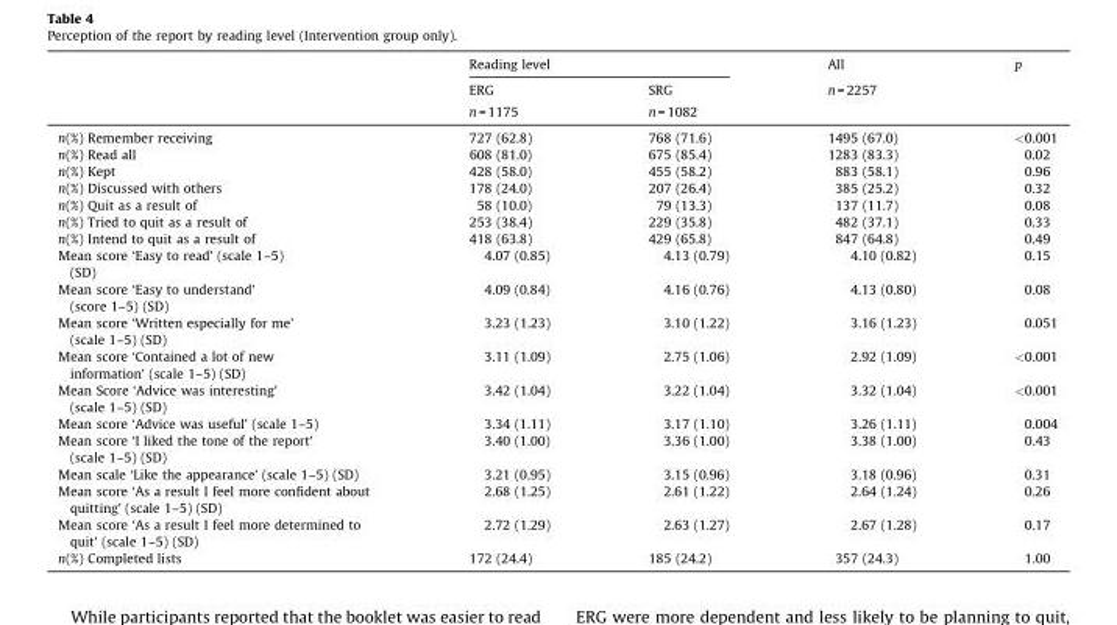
<table><thead><tr><td rowspan="3"></td><td colspan="2">Reading level</td><td rowspan="3">All n = 2257</td><td rowspan="3">p</td></tr><tr><td rowspan="2">ERG n = 1175</td><td rowspan="2">SRG n = 1082</td></tr><tr></tr></thead><tbody><tr><td>n(%) Remember receiving</td><td>727 (62.8)</td><td>768 (71.6)</td><td>1495 (67.0)</td><td>&lt;0.001</td></tr><tr><td>n(%) Read all</td><td>608 (81.0)</td><td>675 (85.4)</td><td>1283 (83.3)</td><td>0.02</td></tr><tr><td>n(%) Kept</td><td>428 (58.0)</td><td>455 (58.2)</td><td>883 (58.1)</td><td>0.96</td></tr><tr><td>n(%) Discussed with others</td><td>178 (24.0)</td><td>207 (26.4)</td><td>385 (25.2)</td><td>0.32</td></tr><tr><td>n(%) Quit as a result of</td><td>58 (10.0)</td><td>79 (13.3)</td><td>137 (11.7)</td><td>0.08</td></tr><tr><td>n(%) Tried to quit as a result of</td><td>253 (38.4)</td><td>229 (35.8)</td><td>482 (37.1)</td><td>0.33</td></tr><tr><td>n(%) Intend to quit as a result of</td><td>418 (63.8)</td><td>429 (65.8)</td><td>847 (64.8)</td><td>0.49</td></tr><tr><td>Mean score ‘Easy to read’ (scale 1–5) (SD)</td><td>4.07 (0.85)</td><td>4.13 (0.79)</td><td>4.10 (0.82)</td><td>0.15</td></tr><tr><td>Mean score ‘Easy to understand’ (score 1–5) (SD)</td><td>4.09 (0.84)</td><td>4.16 (0.76)</td><td>4.13 (0.80)</td><td>0.08</td></tr><tr><td>Mean score ‘Written especially for me’ (scale 1–5) (SD)</td><td>3.23 (1.23)</td><td>3.10 (1.22)</td><td>3.16 (1.23)</td><td>0.051</td></tr><tr><td>Mean score ‘Contained a lot of new information’ (scale 1–5) (SD)</td><td>3.11 (1.09)</td><td>2.75 (1.06)</td><td>2.92 (1.09)</td><td>&lt;0.001</td></tr><tr><td>Mean Score ‘Advice was interesting’ (scale 1–5) (SD)</td><td>3.42 (1.04)</td><td>3.22 (1.04)</td><td>3.32 (1.04)</td><td>&lt;0.001</td></tr><tr><td>Mean score ‘Advice was useful’ (scale 1–5)</td><td>3.34 (1.11)</td><td>3.17 (1.10)</td><td>3.26 (1.11)</td><td>0.004</td></tr><tr><td>Mean score ‘I liked the tone of the report’ (scale 1–5) (SD)</td><td>3.40 (1.00)</td><td>3.36 (1.00)</td><td>3.38 (1.00)</td><td>0.43</td></tr><tr><td>Mean scale ‘Like the appearance’ (scale 1–5) (SD)</td><td>3.21 (0.95)</td><td>3.15 (0.96)</td><td>3.18 (0.96)</td><td>0.31</td></tr><tr><td>Mean score ‘As a result I feel more confident about quitting’ (scale 1–5) (SD)</td><td>2.68 (1.25)</td><td>2.61 (1.22)</td><td>2.64 (1.24)</td><td>0.26</td></tr><tr><td>Mean score ‘As a result I feel more determined to quit’ (scale 1–5) (SD)</td><td>2.72 (1.29)</td><td>2.63 (1.27)</td><td>2.67 (1.28)</td><td>0.17</td></tr><tr><td>n(%) Completed lists</td><td>172 (24.4)</td><td>185 (24.2)</td><td>357 (24.3)</td><td>1.00</td></tr></tbody></table>